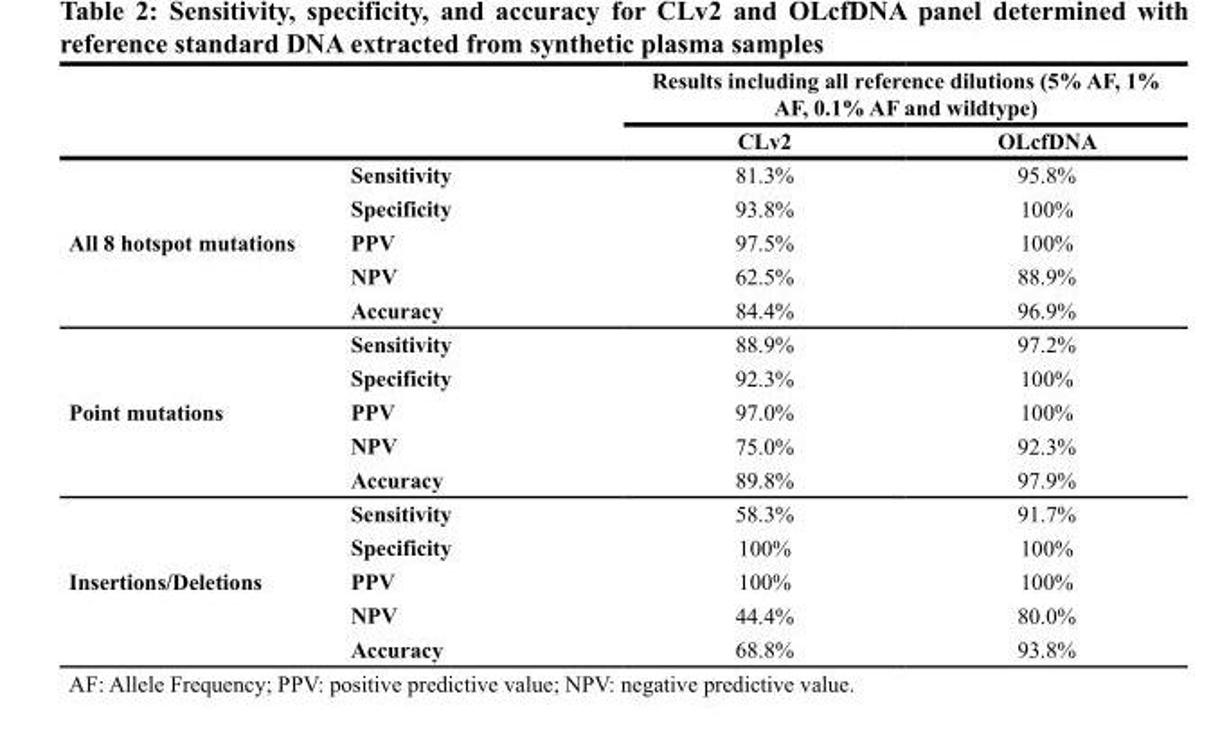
<table><thead><tr><td rowspan="2"></td><td rowspan="2"></td><td colspan="2">Results including all reference dilutions (5% AF, 1% AF, 0.1% AF and wildtype)</td></tr><tr><td>CLv2</td><td>OLcfDNA</td></tr></thead><tbody><tr><td rowspan="5">All 8 hotspot mutations</td><td>Sensitivity</td><td>81.3%</td><td>95.8%</td></tr><tr><td>Specificity</td><td>93.8%</td><td>100%</td></tr><tr><td>PPV</td><td>97.5%</td><td>100%</td></tr><tr><td>NPV</td><td>62.5%</td><td>88.9%</td></tr><tr><td>Accuracy</td><td>84.4%</td><td>96.9%</td></tr><tr><td rowspan="5">Point mutations</td><td>Sensitivity</td><td>88.9%</td><td>97.2%</td></tr><tr><td>Specificity</td><td>92.3%</td><td>100%</td></tr><tr><td>PPV</td><td>97.0%</td><td>100%</td></tr><tr><td>NPV</td><td>75.0%</td><td>92.3%</td></tr><tr><td>Accuracy</td><td>89.8%</td><td>97.9%</td></tr><tr><td rowspan="5">Insertions/Deletions</td><td>Sensitivity</td><td>58.3%</td><td>91.7%</td></tr><tr><td>Specificity</td><td>100%</td><td>100%</td></tr><tr><td>PPV</td><td>100%</td><td>100%</td></tr><tr><td>NPV</td><td>44.4%</td><td>80.0%</td></tr><tr><td>Accuracy</td><td>68.8%</td><td>93.8%</td></tr></tbody></table>